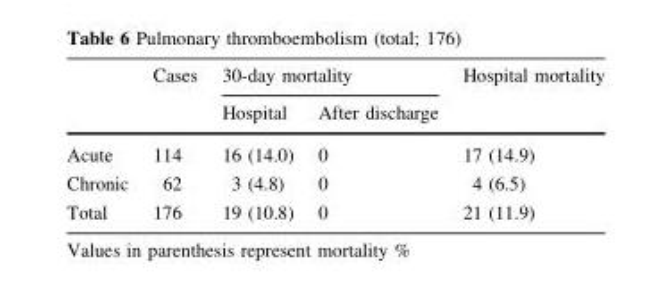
<table><thead><tr><td rowspan="2"></td><td rowspan="2">Cases</td><td colspan="2">30-day mortality</td><td rowspan="2">Hospital mortality</td></tr><tr><td>Hospital</td><td>After discharge</td></tr></thead><tbody><tr><td>Acute</td><td>114</td><td>16 (14.0)</td><td>0</td><td>17 (14.9)</td></tr><tr><td>Chronic</td><td>62</td><td>3 (4.8)</td><td>0</td><td>4 (6.5)</td></tr><tr><td>Total</td><td>176</td><td>19 (10.8)</td><td>0</td><td>21 (11.9)</td></tr></tbody></table>